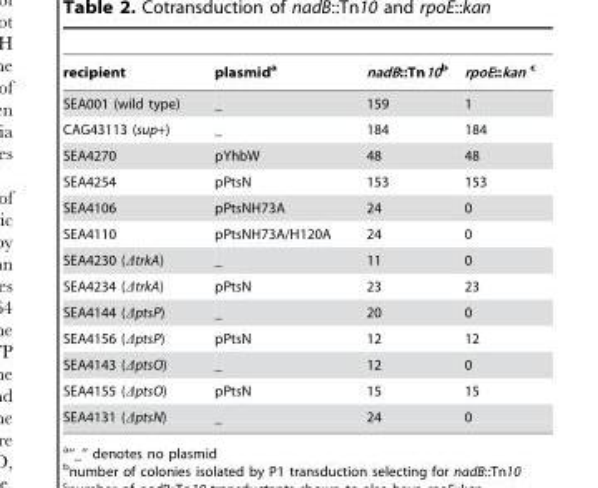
<table><thead><tr><td>recipient</td><td>plasmid<sup>a</sup></td><td>nadB::Tn10b</td><td>rpoE::kan c</td></tr></thead><tbody><tr><td>SEA001 (wild type)</td><td>―</td><td>159</td><td>1</td></tr><tr><td>CAG43113 (sup+)</td><td>―</td><td>184</td><td>184</td></tr><tr><td>SEA4270</td><td>pYhbW</td><td>48</td><td>48</td></tr><tr><td>SEA4254</td><td>pPtsN</td><td>153</td><td>153</td></tr><tr><td>SEA4106</td><td>pPtsNH73A</td><td>24</td><td>0</td></tr><tr><td>SEA4110</td><td>pPtsNH73A/H120A</td><td>24</td><td>0</td></tr><tr><td>SEA4230 (ΔtrkA)</td><td>―</td><td>11</td><td>0</td></tr><tr><td>SEA4234 (ΔtrkA)</td><td>pPtsN</td><td>23</td><td>23</td></tr><tr><td>SEA4144 (ΔptsP)</td><td>―</td><td>20</td><td>0</td></tr><tr><td>SEA4156 (ΔptsP)</td><td>pPtsN</td><td>12</td><td>12</td></tr><tr><td>SEA4143 (ΔptsO)</td><td>―</td><td>12</td><td>0</td></tr><tr><td>SEA4155 (ΔptsO)</td><td>pPtsN</td><td>15</td><td>15</td></tr><tr><td>SEA4131 (ΔptsN)</td><td>―</td><td>24</td><td>0</td></tr></tbody></table>